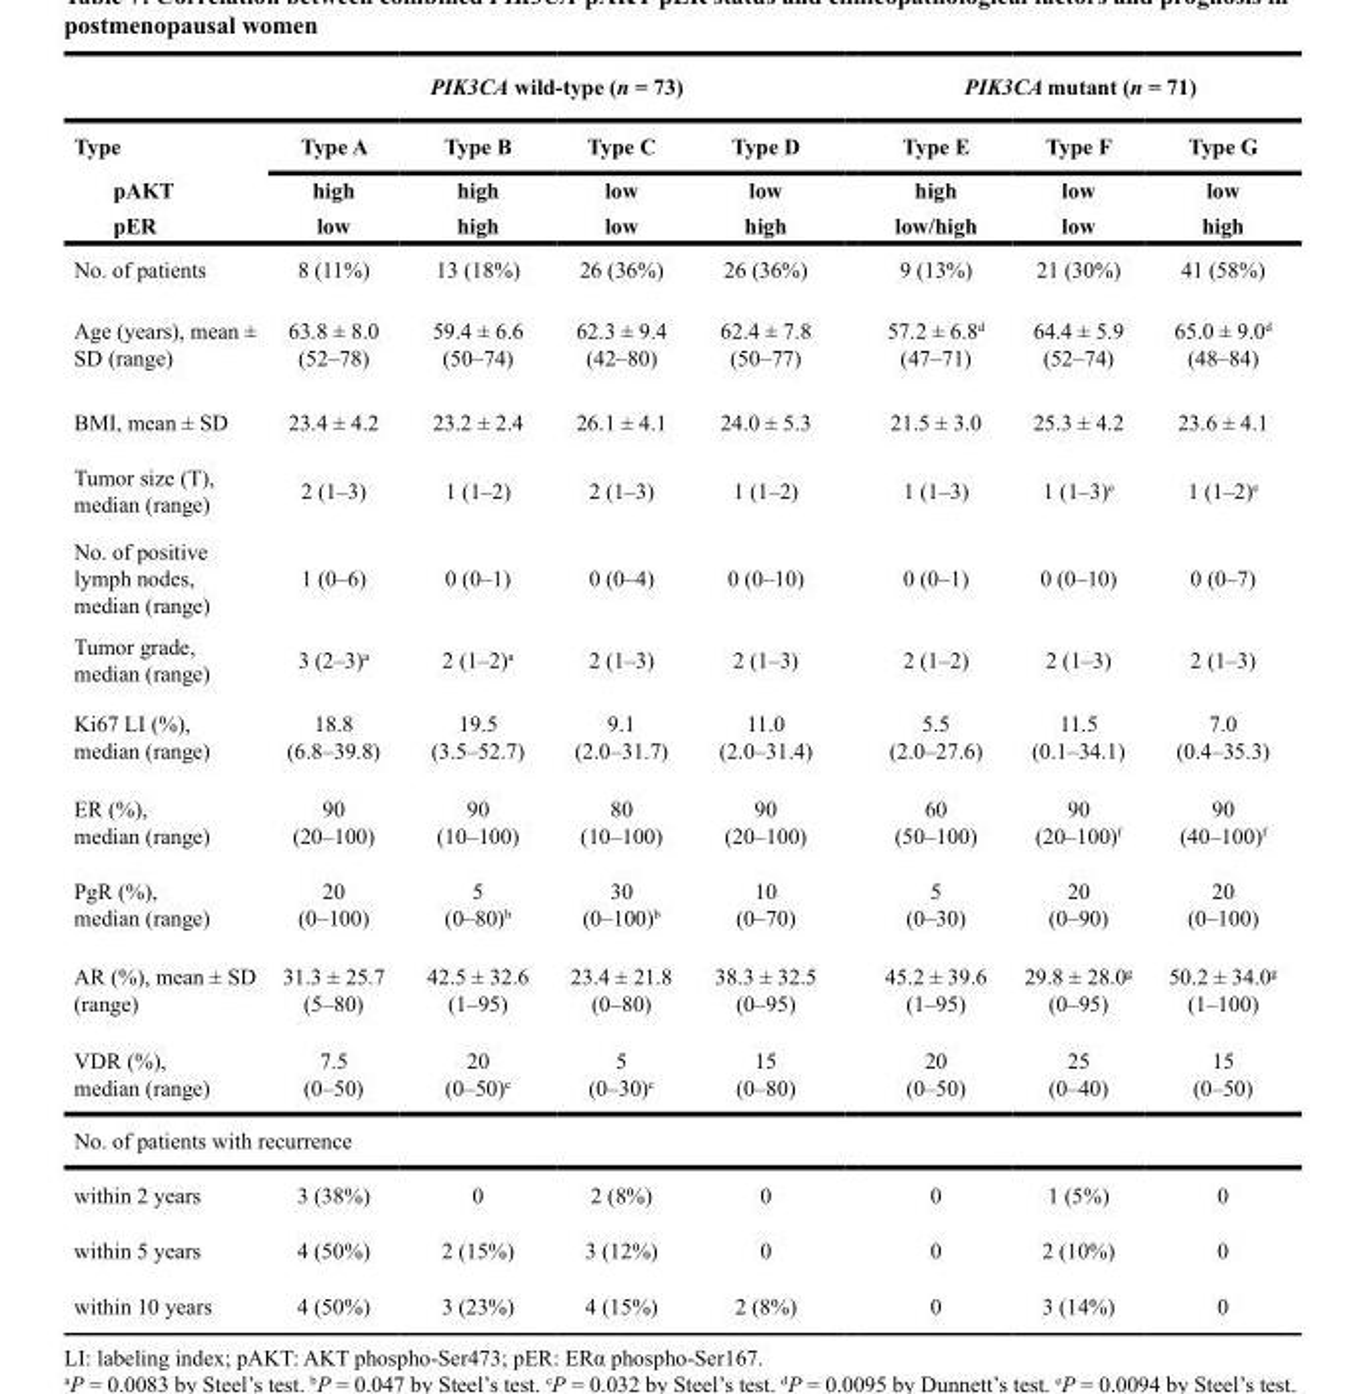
<table><thead><tr><td rowspan="4">Type pAKT pER</td><td colspan="4">PIK3CA wild-type (n = 73)</td><td colspan="3">PIK3CA mutant (n = 71)</td></tr><tr><td rowspan="3">Type A high low</td><td rowspan="3">Type B high high</td><td rowspan="3">Type C low low</td><td rowspan="3">Type D low high</td><td rowspan="3">Type E high low/high</td><td rowspan="3">Type F low low</td><td rowspan="3">Type G low high</td></tr><tr></tr><tr></tr></thead><tbody><tr><td>No. of patients</td><td>8 (11%)</td><td>13 (18%)</td><td>26 (36%)</td><td>26 (36%)</td><td>9 (13%)</td><td>21 (30%)</td><td>41 (58%)</td></tr><tr><td>Age (years), mean ± SD (range)</td><td>63.8 ± 8.0 (52–78)</td><td>59.4 ± 6.6 (50–74)</td><td>62.3 ± 9.4 (42–80)</td><td>62.4 ± 7.8 (50–77)</td><td>57.2 ± 6.8<sup>d</sup> (47–71)</td><td>64.4 ± 5.9 (52–74)</td><td>65.0 ± 9.0<sup>d</sup> (48–84)</td></tr><tr><td>BMI, mean ± SD</td><td>23.4 ± 4.2</td><td>23.2 ± 2.4</td><td>26.1 ± 4.1</td><td>24.0 ± 5.3</td><td>21.5 ± 3.0</td><td>25.3 ± 4.2</td><td>23.6 ± 4.1</td></tr><tr><td>Tumor size (T), median (range)</td><td>2 (1–3)</td><td>1 (1–2)</td><td>2 (1–3)</td><td>1 (1–2)</td><td>1 (1–3)</td><td>1 (1–3)<sup>e</sup></td><td>1 (1–2)<sup>e</sup></td></tr><tr><td>No. of positive lymph nodes, median (range)</td><td>1 (0–6)</td><td>0 (0–1)</td><td>0 (0–4)</td><td>0 (0–10)</td><td>0 (0–1)</td><td>0 (0–10)</td><td>0 (0–7)</td></tr><tr><td>Tumor grade, median (range)</td><td>3 (2–3)<sup>a</sup></td><td>2 (1–2)<sup>a</sup></td><td>2 (1–3)</td><td>2 (1–3)</td><td>2 (1–2)</td><td>2 (1–3)</td><td>2 (1–3)</td></tr><tr><td>Ki67 LI (%), median (range)</td><td>18.8 (6.8–39.8)</td><td>19.5 (3.5–52.7)</td><td>9.1 (2.0–31.7)</td><td>11.0 (2.0–31.4)</td><td>5.5 (2.0–27.6)</td><td>11.5 (0.1–34.1)</td><td>7.0 (0.4–35.3)</td></tr><tr><td>ER (%), median (range)</td><td>90 (20–100)</td><td>90 (10–100)</td><td>80 (10–100)</td><td>90 (20–100)</td><td>60 (50–100)</td><td>90 (20–100)<sup>f</sup></td><td>90 (40–100)<sup>f</sup></td></tr><tr><td>PgR (%), median (range)</td><td>20 (0–100)</td><td>5 (0–80)<sup>b</sup></td><td>30 (0–100)<sup>b</sup></td><td>10 (0–70)</td><td>5 (0–30)</td><td>20 (0–90)</td><td>20 (0–100)</td></tr><tr><td>AR (%), mean ± SD (range)</td><td>31.3 ± 25.7 (5–80)</td><td>42.5 ± 32.6 (1–95)</td><td>23.4 ± 21.8 (0–80)</td><td>38.3 ± 32.5 (0–95)</td><td>45.2 ± 39.6 (1–95)</td><td>29.8 ± 28.0<sup>g</sup> (0–95)</td><td>50.2 ± 34.0<sup>g</sup> (1–100)</td></tr><tr><td>VDR (%), median (range)</td><td>7.5 (0–50)</td><td>20 (0–50)<sup>c</sup></td><td>5 (0–30)<sup>c</sup></td><td>15 (0–80)</td><td>20 (0–50)</td><td>25 (0–40)</td><td>15 (0–50)</td></tr><tr><td colspan="8">No. of patients with recurrence</td></tr><tr><td>within 2 years</td><td>3 (38%)</td><td>0</td><td>2 (8%)</td><td>0</td><td>0</td><td>1 (5%)</td><td>0</td></tr><tr><td>within 5 years</td><td>4 (50%)</td><td>2 (15%)</td><td>3 (12%)</td><td>0</td><td>0</td><td>2 (10%)</td><td>0</td></tr><tr><td>within 10 years</td><td>4 (50%)</td><td>3 (23%)</td><td>4 (15%)</td><td>2 (8%)</td><td>0</td><td>3 (14%)</td><td>0</td></tr></tbody></table>